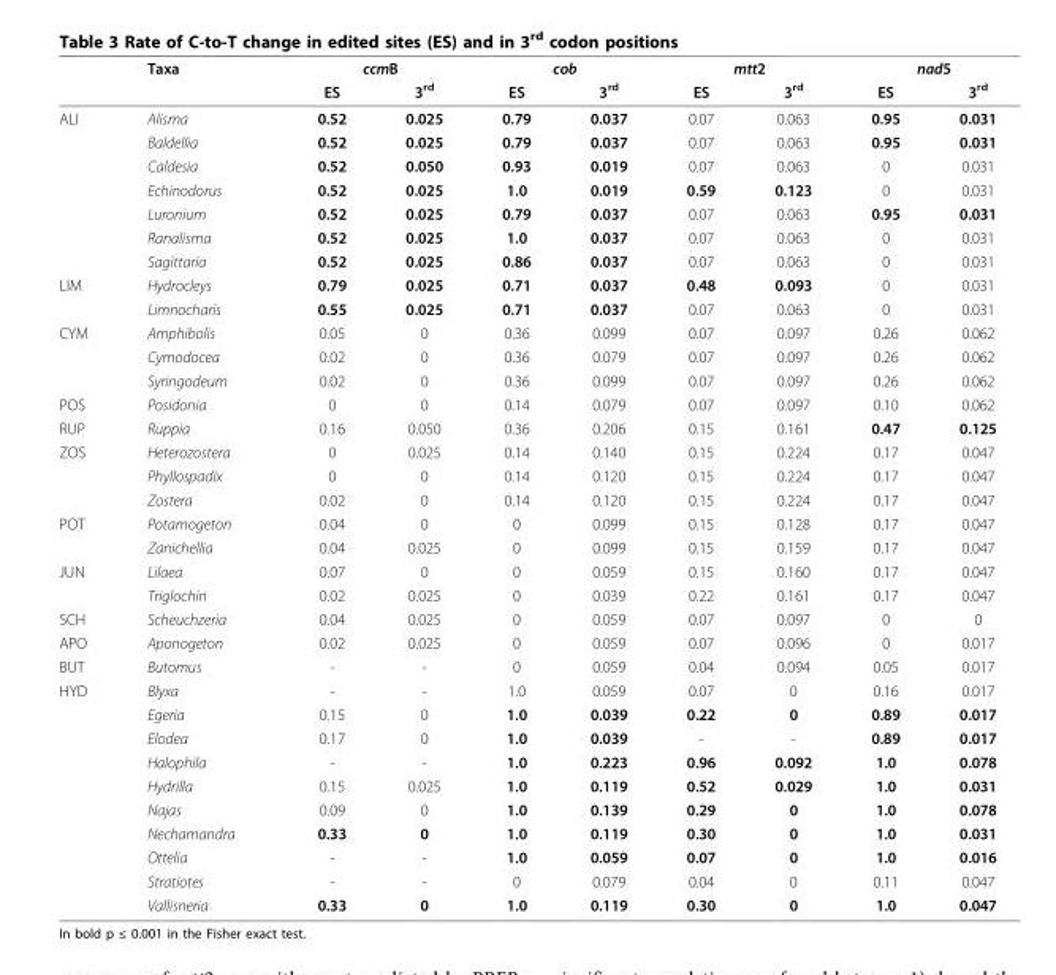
<table><thead><tr><td rowspan="2"></td><td rowspan="2">Taxa</td><td colspan="2">ccmB</td><td colspan="2">cob</td><td colspan="2">mtt2</td><td colspan="2">nad5</td></tr><tr><td>ES</td><td>3<sup>rd</sup></td><td>ES</td><td>3<sup>rd</sup></td><td>ES</td><td>3<sup>rd</sup></td><td>ES</td><td>3<sup>rd</sup></td></tr></thead><tbody><tr><td rowspan="7">ALI</td><td>Alisma</td><td>0.52</td><td>0.025</td><td>0.79</td><td>0.037</td><td>0.07</td><td>0.063</td><td>0.95</td><td>0.031</td></tr><tr><td>Baldellia</td><td>0.52</td><td>0.025</td><td>0.79</td><td>0.037</td><td>0.07</td><td>0.063</td><td>0.95</td><td>0.031</td></tr><tr><td>Caldesia</td><td>0.52</td><td>0.050</td><td>0.93</td><td>0.019</td><td>0.07</td><td>0.063</td><td>0</td><td>0.031</td></tr><tr><td>Echinodorus</td><td>0.52</td><td>0.025</td><td>1.0</td><td>0.019</td><td>0.59</td><td>0.123</td><td>0</td><td>0.031</td></tr><tr><td>Luronium</td><td>0.52</td><td>0.025</td><td>0.79</td><td>0.037</td><td>0.07</td><td>0.063</td><td>0.95</td><td>0.031</td></tr><tr><td>Ranalisma</td><td>0.52</td><td>0.025</td><td>1.0</td><td>0.037</td><td>0.07</td><td>0.063</td><td>0</td><td>0.031</td></tr><tr><td>Sagittaria</td><td>0.52</td><td>0.025</td><td>0.86</td><td>0.037</td><td>0.07</td><td>0.063</td><td>0</td><td>0.031</td></tr><tr><td rowspan="2">LIM</td><td>Hydrocleys</td><td>0.79</td><td>0.025</td><td>0.71</td><td>0.037</td><td>0.48</td><td>0.093</td><td>0</td><td>0.031</td></tr><tr><td>Limnocharis</td><td>0.55</td><td>0.025</td><td>0.71</td><td>0.037</td><td>0.07</td><td>0.063</td><td>0</td><td>0.031</td></tr><tr><td rowspan="3">CYM</td><td>Amphibolis</td><td>0.05</td><td>0</td><td>0.36</td><td>0.099</td><td>0.07</td><td>0.097</td><td>0.26</td><td>0.062</td></tr><tr><td>Cymodocea</td><td>0.02</td><td>0</td><td>0.36</td><td>0.079</td><td>0.07</td><td>0.097</td><td>0.26</td><td>0.062</td></tr><tr><td>Syringodeum</td><td>0.02</td><td>0</td><td>0.36</td><td>0.099</td><td>0.07</td><td>0.097</td><td>0.26</td><td>0.062</td></tr><tr><td>POS</td><td>Posidonia</td><td>0</td><td>0</td><td>0.14</td><td>0.079</td><td>0.07</td><td>0.097</td><td>0.10</td><td>0.062</td></tr><tr><td>RUP</td><td>Ruppia</td><td>0.16</td><td>0.050</td><td>0.36</td><td>0.206</td><td>0.15</td><td>0.161</td><td>0.47</td><td>0.125</td></tr><tr><td rowspan="3">ZOS</td><td>Heterozostera</td><td>0</td><td>0.025</td><td>0.14</td><td>0.140</td><td>0.15</td><td>0.224</td><td>0.17</td><td>0.047</td></tr><tr><td>Phyllospadix</td><td>0</td><td>0</td><td>0.14</td><td>0.120</td><td>0.15</td><td>0.224</td><td>0.17</td><td>0.047</td></tr><tr><td>Zostera</td><td>0.02</td><td>0</td><td>0.14</td><td>0.120</td><td>0.15</td><td>0.224</td><td>0.17</td><td>0.047</td></tr><tr><td rowspan="2">POT</td><td>Potamogeton</td><td>0.04</td><td>0</td><td>0</td><td>0.099</td><td>0.15</td><td>0.128</td><td>0.17</td><td>0.047</td></tr><tr><td>Zanichellia</td><td>0.04</td><td>0.025</td><td>0</td><td>0.099</td><td>0.15</td><td>0.159</td><td>0.17</td><td>0.047</td></tr><tr><td rowspan="2">JUN</td><td>Lilaea</td><td>0.07</td><td>0</td><td>0</td><td>0.059</td><td>0.15</td><td>0.160</td><td>0.17</td><td>0.047</td></tr><tr><td>Triglochin</td><td>0.02</td><td>0.025</td><td>0</td><td>0.039</td><td>0.22</td><td>0.161</td><td>0.17</td><td>0.047</td></tr><tr><td>SCH</td><td>Scheuchzeria</td><td>0.04</td><td>0.025</td><td>0</td><td>0.059</td><td>0.07</td><td>0.097</td><td>0</td><td>0</td></tr><tr><td>APO</td><td>Aponogeton</td><td>0.02</td><td>0.025</td><td>0</td><td>0.059</td><td>0.07</td><td>0.096</td><td>0</td><td>0.017</td></tr><tr><td>BUT</td><td>Butomus</td><td>-</td><td>-</td><td>0</td><td>0.059</td><td>0.04</td><td>0.094</td><td>0.05</td><td>0.017</td></tr><tr><td rowspan="10">HYD</td><td>Blyxa</td><td>-</td><td>-</td><td>1.0</td><td>0.059</td><td>0.07</td><td>0</td><td>0.16</td><td>0.017</td></tr><tr><td>Egeria</td><td>0.15</td><td>0</td><td>1.0</td><td>0.039</td><td>0.22</td><td>0</td><td>0.89</td><td>0.017</td></tr><tr><td>Elodea</td><td>0.17</td><td>0</td><td>1.0</td><td>0.039</td><td>-</td><td>-</td><td>0.89</td><td>0.017</td></tr><tr><td>Halophila</td><td>-</td><td>-</td><td>1.0</td><td>0.223</td><td>0.96</td><td>0.092</td><td>1.0</td><td>0.078</td></tr><tr><td>Hydrilla</td><td>0.15</td><td>0.025</td><td>1.0</td><td>0.119</td><td>0.52</td><td>0.029</td><td>1.0</td><td>0.031</td></tr><tr><td>Najas</td><td>0.09</td><td>0</td><td>1.0</td><td>0.139</td><td>0.29</td><td>0</td><td>1.0</td><td>0.078</td></tr><tr><td>Nechamandra</td><td>0.33</td><td>0</td><td>1.0</td><td>0.119</td><td>0.30</td><td>0</td><td>1.0</td><td>0.031</td></tr><tr><td>Ottelia</td><td>-</td><td>-</td><td>1.0</td><td>0.059</td><td>0.07</td><td>0</td><td>1.0</td><td>0.016</td></tr><tr><td>Stratiotes</td><td>-</td><td>-</td><td>0</td><td>0.079</td><td>0.04</td><td>0</td><td>0.11</td><td>0.047</td></tr><tr><td>Vallisneria</td><td>0.33</td><td>0</td><td>1.0</td><td>0.119</td><td>0.30</td><td>0</td><td>1.0</td><td>0.047</td></tr></tbody></table>